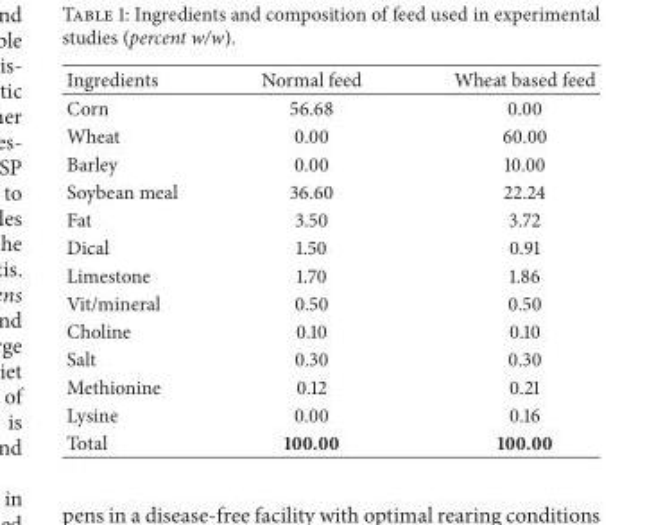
<table><thead><tr><td>Ingredients</td><td>Normal feed</td><td>Wheat based feed</td></tr></thead><tbody><tr><td>Corn</td><td>56.68</td><td>0.00</td></tr><tr><td>Wheat</td><td>0.00</td><td>60.00</td></tr><tr><td>Barley</td><td>0.00</td><td>10.00</td></tr><tr><td>Soybean meal</td><td>36.60</td><td>22.24</td></tr><tr><td>Fat</td><td>3.50</td><td>3.72</td></tr><tr><td>Dical</td><td>1.50</td><td>0.91</td></tr><tr><td>Limestone</td><td>1.70</td><td>1.86</td></tr><tr><td>Vit/mineral</td><td>0.50</td><td>0.50</td></tr><tr><td>Choline</td><td>0.10</td><td>0.10</td></tr><tr><td>Salt</td><td>0.30</td><td>0.30</td></tr><tr><td>Methionine</td><td>0.12</td><td>0.21</td></tr><tr><td>Lysine</td><td>0.00</td><td>0.16</td></tr><tr><td>Total</td><td>100.00</td><td>100.00</td></tr></tbody></table>